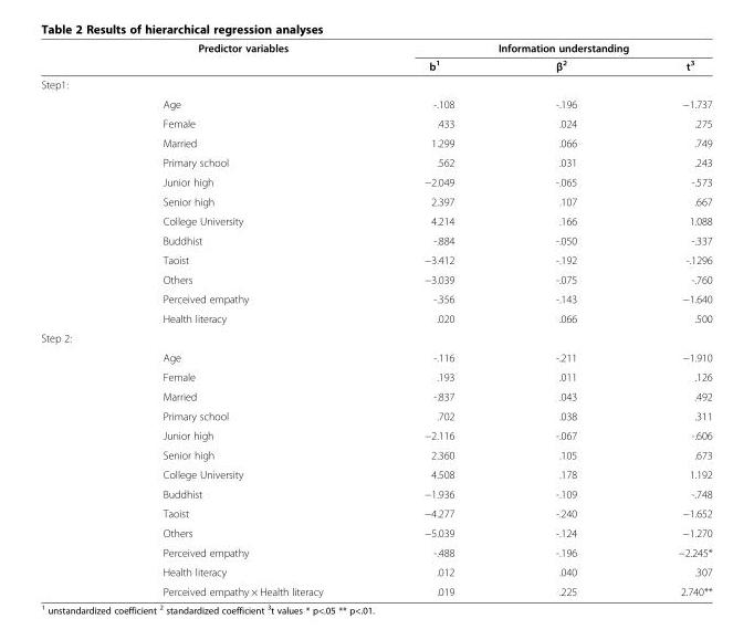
<table><thead><tr><td rowspan="2"></td><td rowspan="2">Predictor variables</td><td colspan="3">Information understanding</td></tr><tr><td>b<sup>1</sup></td><td>β<sup>2</sup></td><td>t<sup>3</sup></td></tr></thead><tbody><tr><td colspan="5">Step1:</td></tr><tr><td rowspan="12"></td><td>Age</td><td>-.108</td><td>-.196</td><td>−1.737</td></tr><tr><td>Female</td><td>.433</td><td>.024</td><td>.275</td></tr><tr><td>Married</td><td>1.299</td><td>.066</td><td>.749</td></tr><tr><td>Primary school</td><td>.562</td><td>.031</td><td>.243</td></tr><tr><td>Junior high</td><td>−2.049</td><td>-.065</td><td>-.573</td></tr><tr><td>Senior high</td><td>2.397</td><td>.107</td><td>.667</td></tr><tr><td>College University</td><td>4.214</td><td>.166</td><td>1.088</td></tr><tr><td>Buddhist</td><td>-.884</td><td>-.050</td><td>-.337</td></tr><tr><td>Taoist</td><td>−3.412</td><td>-.192</td><td>-.1296</td></tr><tr><td>Others</td><td>−3.039</td><td>-.075</td><td>-.760</td></tr><tr><td>Perceived empathy</td><td>-.356</td><td>-.143</td><td>−1.640</td></tr><tr><td>Health literacy</td><td>.020</td><td>.066</td><td>.500</td></tr><tr><td colspan="5">Step 2:</td></tr><tr><td rowspan="12"></td><td>Age</td><td>-.116</td><td>-.211</td><td>−1.910</td></tr><tr><td>Female</td><td>.193</td><td>.011</td><td>.126</td></tr><tr><td>Married</td><td>-.837</td><td>.043</td><td>.492</td></tr><tr><td>Primary school</td><td>.702</td><td>.038</td><td>.311</td></tr><tr><td>Junior high</td><td>−2.116</td><td>-.067</td><td>-.606</td></tr><tr><td>Senior high</td><td>2.360</td><td>.105</td><td>.673</td></tr><tr><td>College University</td><td>4.508</td><td>.178</td><td>1.192</td></tr><tr><td>Buddhist</td><td>−1.936</td><td>-.109</td><td>-.748</td></tr><tr><td>Taoist</td><td>−4.277</td><td>-.240</td><td>−1.652</td></tr><tr><td>Others</td><td>−5.039</td><td>-.124</td><td>−1.270</td></tr><tr><td>Perceived empathy</td><td>-.488</td><td>-.196</td><td>−2.245*</td></tr><tr><td>Health literacy</td><td>.012</td><td>.040</td><td>.307</td></tr><tr><td></td><td>Perceived empathy × Health literacy</td><td>.019</td><td>.225</td><td>2.740**</td></tr></tbody></table>